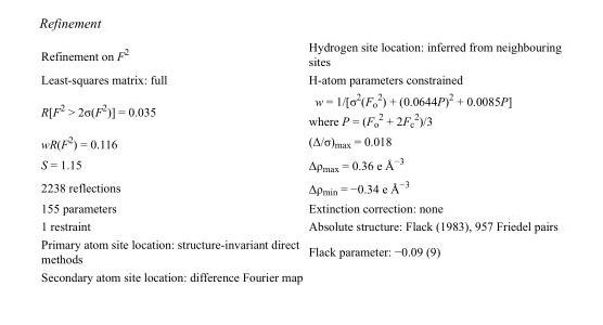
<table><tbody><tr><td>Refinement on F<sup>2</sup></td><td>Hydrogen site location: inferred from neighbouring sites</td></tr><tr><td>Least-squares matrix: full</td><td>H-atom parameters constrained</td></tr><tr><td>R[F<sup>2</sup> &gt; 2σ(F<sup>2</sup>)] = 0.035</td><td>w = 1/[σ<sup>2</sup>(F<sub>o</sub> <sup>2</sup>) + (0.0644P)<sup>2</sup> + 0.0085P] where P = (F<sub>o</sub> <sup>2</sup> + 2F<sub>c</sub> <sup>2</sup>)/3</td></tr><tr><td>wR(F<sup>2</sup>) = 0.116</td><td>(Δ/σ)<sub>max</sub> = 0.018</td></tr><tr><td>S = 1.15</td><td>Δρ<sub>max</sub> = 0.36 e Å<sup>−3</sup></td></tr><tr><td>2238 reflections</td><td>Δρ<sub>min</sub> = −0.34 e Å<sup>−3</sup></td></tr><tr><td>155 parameters</td><td>Extinction correction: none</td></tr><tr><td>1 restraint</td><td>Absolute structure: Flack (1983), 957 Friedel pairs</td></tr><tr><td>Primary atom site location: structure-invariant direct methods</td><td>Flack parameter: −0.09 (9)</td></tr><tr><td>Secondary atom site location: difference Fourier map</td><td></td></tr></tbody></table>